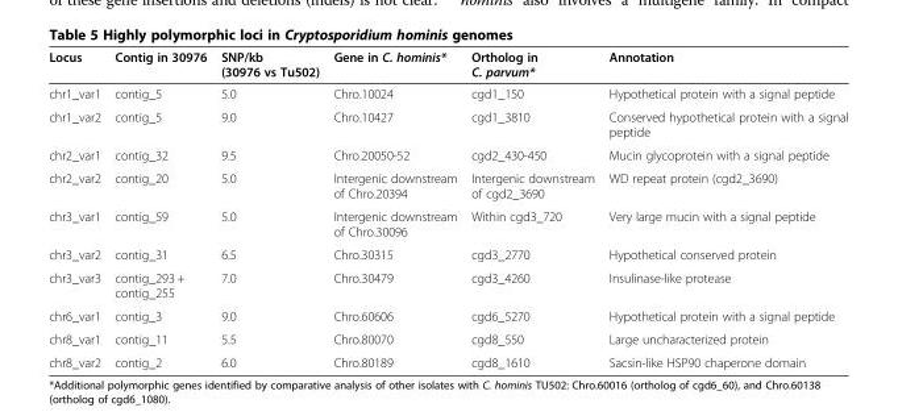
<table><thead><tr><td>Locus</td><td>Contig in 30976</td><td>SNP/kb (30976 vs Tu502)</td><td>Gene in C. hominis*</td><td>Ortholog in C. parvum*</td><td>Annotation</td></tr></thead><tbody><tr><td>chr1_var1</td><td>contig_5</td><td>5.0</td><td>Chro.10024</td><td>cgd1_150</td><td>Hypothetical protein with a signal peptide</td></tr><tr><td>chr1_var2</td><td>contig_5</td><td>9.0</td><td>Chro.10427</td><td>cgd1_3810</td><td>Conserved hypothetical protein with a signal peptide</td></tr><tr><td>chr2_var1</td><td>contig_32</td><td>9.5</td><td>Chro.20050-52</td><td>cgd2_430-450</td><td>Mucin glycoprotein with a signal peptide</td></tr><tr><td>chr2_var2</td><td>contig_20</td><td>5.0</td><td>Intergenic downstream of Chro.20394</td><td>Intergenic downstream of cgd2_3690</td><td>WD repeat protein (cgd2_3690)</td></tr><tr><td>chr3_var1</td><td>contig_59</td><td>5.0</td><td>Intergenic downstream of Chro.30096</td><td>Within cgd3_720</td><td>Very large mucin with a signal peptide</td></tr><tr><td>chr3_var2</td><td>contig_31</td><td>6.5</td><td>Chro.30315</td><td>cgd3_2770</td><td>Hypothetical conserved protein</td></tr><tr><td>chr3_var3</td><td>contig_293 + contig_255</td><td>7.0</td><td>Chro.30479</td><td>cgd3_4260</td><td>Insulinase-like protease</td></tr><tr><td>chr6_var1</td><td>contig_3</td><td>9.0</td><td>Chro.60606</td><td>cgd6_5270</td><td>Hypothetical protein with a signal peptide</td></tr><tr><td>chr8_var1</td><td>contig_11</td><td>5.5</td><td>Chro.80070</td><td>cgd8_550</td><td>Large uncharacterized protein</td></tr><tr><td>chr8_var2</td><td>contig_2</td><td>6.0</td><td>Chro.80189</td><td>cgd8_1610</td><td>Sacsin-like HSP90 chaperone domain</td></tr></tbody></table>